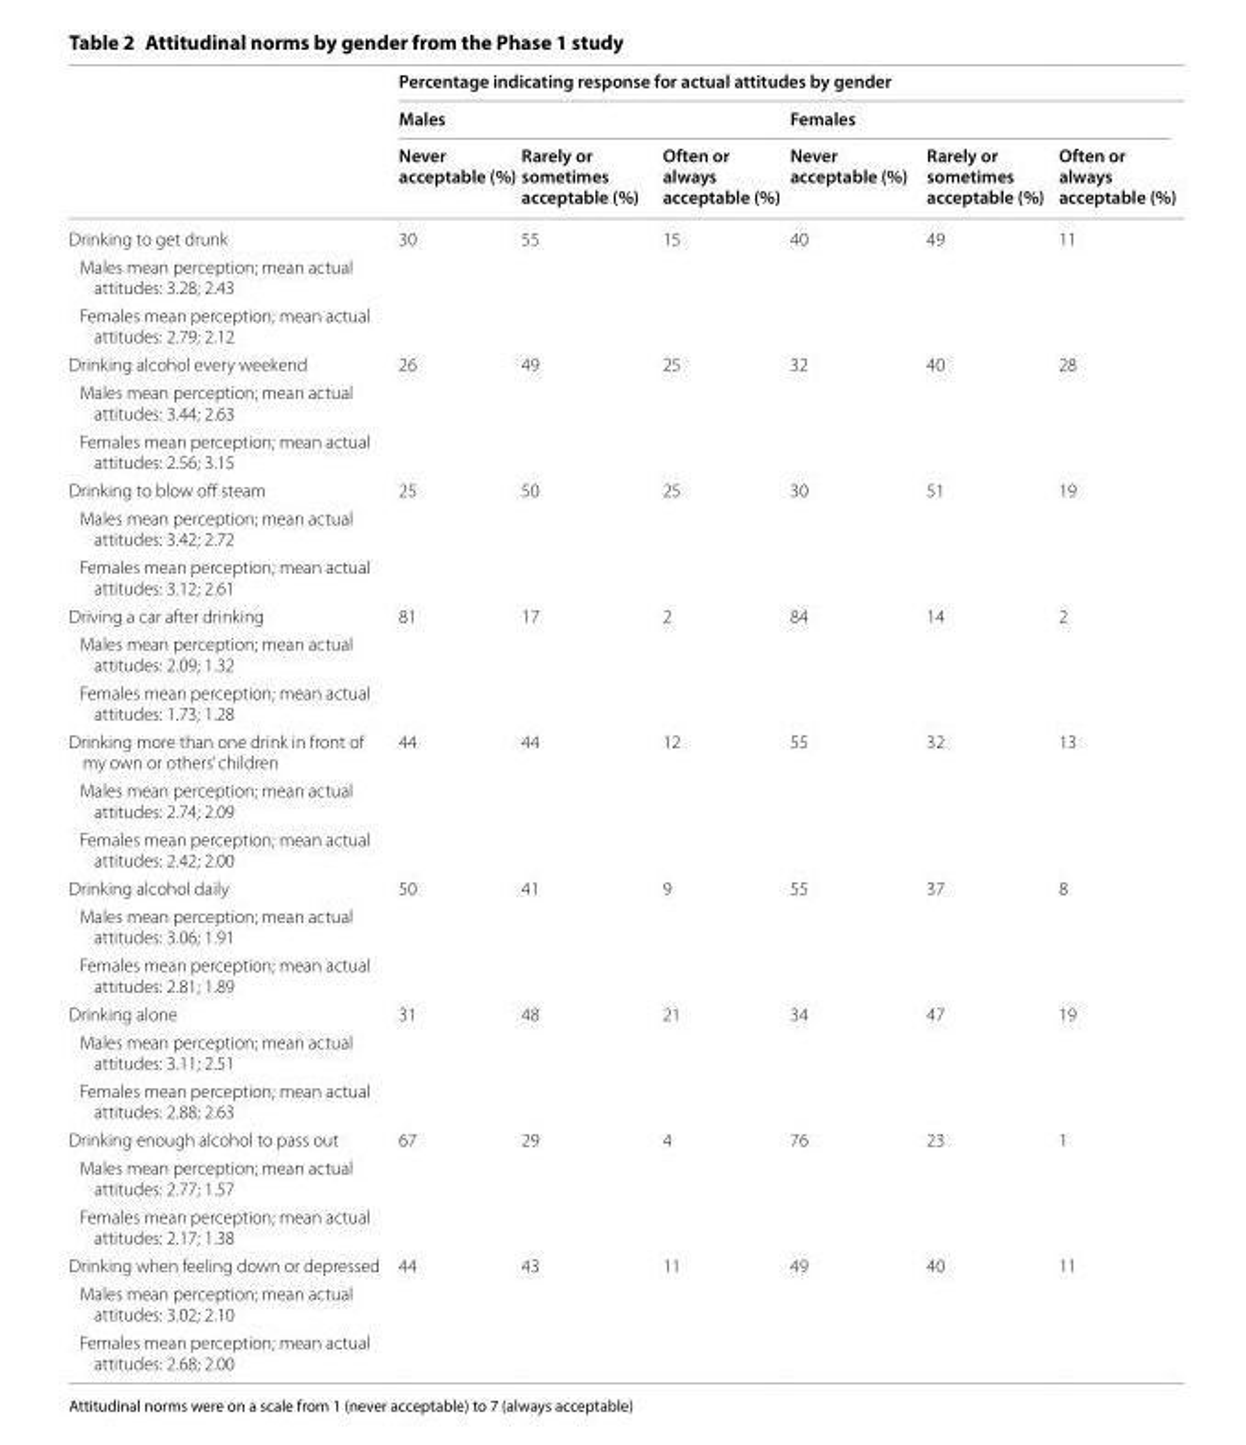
<table><thead><tr><td rowspan="3"></td><td colspan="6">Percentage indicating response for actual attitudes by gender</td></tr><tr><td colspan="3">Males</td><td colspan="3">Females</td></tr><tr><td>Never acceptable (%)</td><td>Rarely or sometimes acceptable (%)</td><td>Often or always acceptable (%)</td><td>Never acceptable (%)</td><td>Rarely or sometimes acceptable (%)</td><td>Often or always acceptable (%)</td></tr></thead><tbody><tr><td>Drinking to get drunk</td><td>30</td><td>55</td><td>15</td><td>40</td><td>49</td><td>11</td></tr><tr><td colspan="7">Males mean perception; mean actual attitudes: 3.28; 2.43</td></tr><tr><td colspan="7">Females mean perception; mean actual attitudes: 2.79; 2.12</td></tr><tr><td>Drinking alcohol every weekend</td><td>26</td><td>49</td><td>25</td><td>32</td><td>40</td><td>28</td></tr><tr><td colspan="7">Males mean perception; mean actual attitudes: 3.44; 2.63</td></tr><tr><td colspan="7">Females mean perception; mean actual attitudes: 2.56; 3.15</td></tr><tr><td>Drinking to blow off steam</td><td>25</td><td>50</td><td>25</td><td>30</td><td>51</td><td>19</td></tr><tr><td colspan="7">Males mean perception; mean actual attitudes: 3.42; 2.72</td></tr><tr><td colspan="7">Females mean perception; mean actual attitudes: 3.12; 2.61</td></tr><tr><td>Driving a car after drinking</td><td>81</td><td>17</td><td>2</td><td>84</td><td>14</td><td>2</td></tr><tr><td colspan="7">Males mean perception; mean actual attitudes: 2.09; 1.32</td></tr><tr><td colspan="7">Females mean perception; mean actual attitudes: 1.73; 1.28</td></tr><tr><td>Drinking more than one drink in front of my own or others’ children</td><td>44</td><td>44</td><td>12</td><td>55</td><td>32</td><td>13</td></tr><tr><td colspan="7">Males mean perception; mean actual attitudes: 2.74; 2.09</td></tr><tr><td colspan="7">Females mean perception; mean actual attitudes: 2.42; 2.00</td></tr><tr><td>Drinking alcohol daily</td><td>50</td><td>41</td><td>9</td><td>55</td><td>37</td><td>8</td></tr><tr><td colspan="7">Males mean perception; mean actual attitudes: 3.06; 1.91</td></tr><tr><td colspan="7">Females mean perception; mean actual attitudes: 2.81; 1.89</td></tr><tr><td>Drinking alone</td><td>31</td><td>48</td><td>21</td><td>34</td><td>47</td><td>19</td></tr><tr><td colspan="7">Males mean perception; mean actual attitudes: 3.11; 2.51</td></tr><tr><td colspan="7">Females mean perception; mean actual attitudes: 2.88; 2.63</td></tr><tr><td>Drinking enough alcohol to pass out</td><td>67</td><td>29</td><td>4</td><td>76</td><td>23</td><td>1</td></tr><tr><td colspan="7">Males mean perception; mean actual attitudes: 2.77; 1.57</td></tr><tr><td colspan="7">Females mean perception; mean actual attitudes: 2.17; 1.38</td></tr><tr><td>Drinking when feeling down or depressed</td><td>44</td><td>43</td><td>11</td><td>49</td><td>40</td><td>11</td></tr><tr><td colspan="7">Males mean perception; mean actual attitudes: 3.02; 2.10</td></tr><tr><td>Females mean perception; mean actual attitudes: 2.68; 2.00</td><td></td><td></td><td></td><td></td><td></td><td></td></tr></tbody></table>